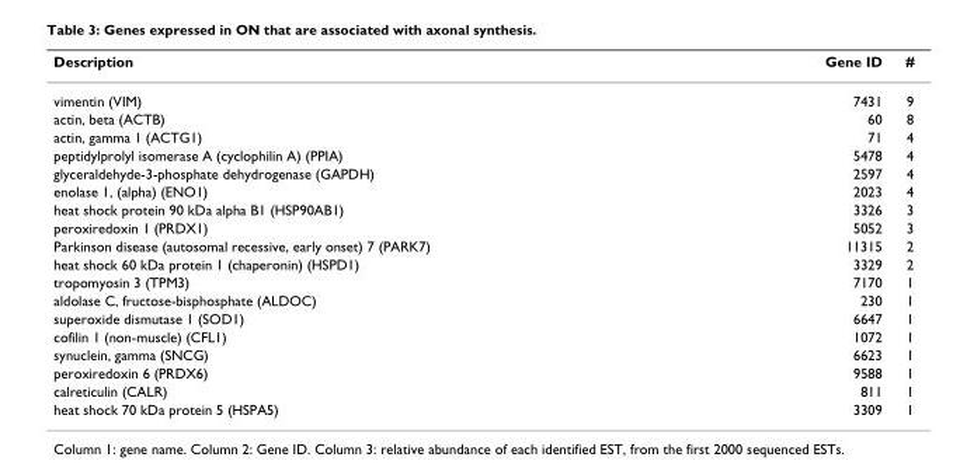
<table><thead><tr><td>Description</td><td>Gene ID</td><td>#</td></tr></thead><tbody><tr><td>vimentin (VIM)</td><td>7431</td><td>9</td></tr><tr><td>actin, beta (ACTB)</td><td>60</td><td>8</td></tr><tr><td>actin, gamma 1 (ACTG1)</td><td>71</td><td>4</td></tr><tr><td>peptidylprolyl isomerase A (cyclophilin A) (PPIA)</td><td>5478</td><td>4</td></tr><tr><td>glyceraldehyde-3-phosphate dehydrogenase (GAPDH)</td><td>2597</td><td>4</td></tr><tr><td>enolase 1, (alpha) (ENO1)</td><td>2023</td><td>4</td></tr><tr><td>heat shock protein 90 kDa alpha B1 (HSP90AB1)</td><td>3326</td><td>3</td></tr><tr><td>peroxiredoxin 1 (PRDX1)</td><td>5052</td><td>3</td></tr><tr><td>Parkinson disease (autosomal recessive, early onset) 7 (PARK7)</td><td>11315</td><td>2</td></tr><tr><td>heat shock 60 kDa protein 1 (chaperonin) (HSPD1)</td><td>3329</td><td>2</td></tr><tr><td>tropomyosin 3 (TPM3)</td><td>7170</td><td>1</td></tr><tr><td>aldolase C, fructose-bisphosphate (ALDOC)</td><td>230</td><td>1</td></tr><tr><td>superoxide dismutase 1 (SOD1)</td><td>6647</td><td>1</td></tr><tr><td>cofilin 1 (non-muscle) (CFL1)</td><td>1072</td><td>1</td></tr><tr><td>synuclein, gamma (SNCG)</td><td>6623</td><td>1</td></tr><tr><td>peroxiredoxin 6 (PRDX6)</td><td>9588</td><td>1</td></tr><tr><td>calreticulin (CALR)</td><td>811</td><td>1</td></tr><tr><td>heat shock 70 kDa protein 5 (HSPA5)</td><td>3309</td><td>1</td></tr></tbody></table>